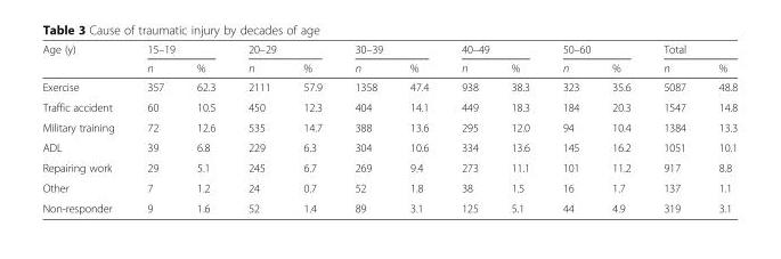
<table><thead><tr><td rowspan="2">Age (y)</td><td colspan="2">15–19</td><td colspan="2">20–29</td><td colspan="2">30–39</td><td colspan="2">40–49</td><td colspan="2">50–60</td><td colspan="2">Total</td></tr><tr><td>n</td><td>%</td><td>n</td><td>%</td><td>n</td><td>%</td><td>n</td><td>%</td><td>n</td><td>%</td><td>n</td><td>%</td></tr></thead><tbody><tr><td>Exercise</td><td>357</td><td>62.3</td><td>2111</td><td>57.9</td><td>1358</td><td>47.4</td><td>938</td><td>38.3</td><td>323</td><td>35.6</td><td>5087</td><td>48.8</td></tr><tr><td>Traffic accident</td><td>60</td><td>10.5</td><td>450</td><td>12.3</td><td>404</td><td>14.1</td><td>449</td><td>18.3</td><td>184</td><td>20.3</td><td>1547</td><td>14.8</td></tr><tr><td>Military training</td><td>72</td><td>12.6</td><td>535</td><td>14.7</td><td>388</td><td>13.6</td><td>295</td><td>12.0</td><td>94</td><td>10.4</td><td>1384</td><td>13.3</td></tr><tr><td>ADL</td><td>39</td><td>6.8</td><td>229</td><td>6.3</td><td>304</td><td>10.6</td><td>334</td><td>13.6</td><td>145</td><td>16.2</td><td>1051</td><td>10.1</td></tr><tr><td>Repairing work</td><td>29</td><td>5.1</td><td>245</td><td>6.7</td><td>269</td><td>9.4</td><td>273</td><td>11.1</td><td>101</td><td>11.2</td><td>917</td><td>8.8</td></tr><tr><td>Other</td><td>7</td><td>1.2</td><td>24</td><td>0.7</td><td>52</td><td>1.8</td><td>38</td><td>1.5</td><td>16</td><td>1.7</td><td>137</td><td>1.1</td></tr><tr><td>Non-responder</td><td>9</td><td>1.6</td><td>52</td><td>1.4</td><td>89</td><td>3.1</td><td>125</td><td>5.1</td><td>44</td><td>4.9</td><td>319</td><td>3.1</td></tr></tbody></table>